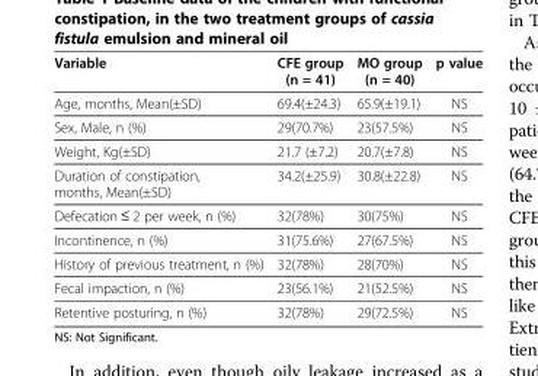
<table><thead><tr><td>Variable</td><td>CFE group (n = 41)</td><td>MO group (n = 40)</td><td>p value</td></tr></thead><tbody><tr><td>Age, months, Mean(±SD)</td><td>69.4(±24.3)</td><td>65.9(±19.1)</td><td>NS</td></tr><tr><td>Sex, Male, n (%)</td><td>29(70.7%)</td><td>23(57.5%)</td><td>NS</td></tr><tr><td>Weight, Kg(±SD)</td><td>21.7 (±7.2)</td><td>20.7(±7.8)</td><td>NS</td></tr><tr><td>Duration of constipation, months, Mean(±SD)</td><td>34.2(±25.9)</td><td>30.8(±22.8)</td><td>NS</td></tr><tr><td>Defecation ≤ 2 per week, n (%)</td><td>32(78%)</td><td>30(75%)</td><td>NS</td></tr><tr><td>Incontinence, n (%)</td><td>31(75.6%)</td><td>27(67.5%)</td><td>NS</td></tr><tr><td>History of previous treatment, n (%)</td><td>32(78%)</td><td>28(70%)</td><td>NS</td></tr><tr><td>Fecal impaction, n (%)</td><td>23(56.1%)</td><td>21(52.5%)</td><td>NS</td></tr><tr><td>Retentive posturing, n (%)</td><td>32(78%)</td><td>29(72.5%)</td><td>NS</td></tr></tbody></table>